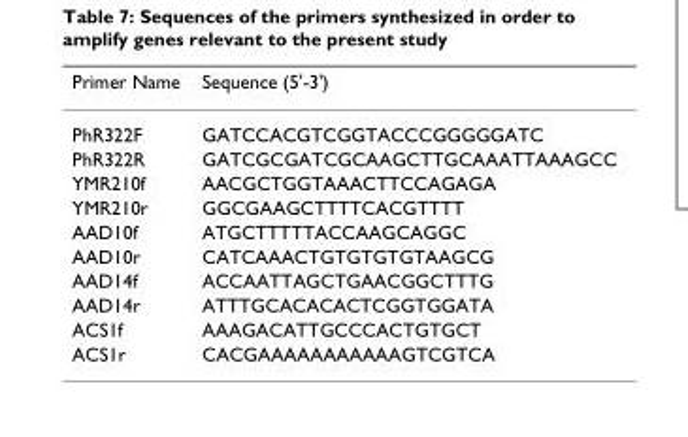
<table><thead><tr><td>Primer Name</td><td>Sequence (5&#x27;-3&#x27;)</td></tr></thead><tbody><tr><td>PhR322F</td><td>GATCCACGTCGGTACCCGGGGGATC</td></tr><tr><td>PhR322R</td><td>GATCGCGATCGCAAGCTTGCAAATTAAAGCC</td></tr><tr><td>YMR210f</td><td>AACGCTGGTAAACTTCCAGAGA</td></tr><tr><td>YMR210r</td><td>GGCGAAGCTTTTCACGTTTT</td></tr><tr><td>AAD10f</td><td>ATGCTTTTTACCAAGCAGGC</td></tr><tr><td>AAD10r</td><td>CATCAAACTGTGTGTGTAAGCG</td></tr><tr><td>AAD14f</td><td>ACCAATTAGCTGAACGGCTTTG</td></tr><tr><td>AAD14r</td><td>ATTTGCACACACTCGGTGGATA</td></tr><tr><td>ACS1f</td><td>AAAGACATTGCCCACTGTGCT</td></tr><tr><td>ACS1r</td><td>CACGAAAAAAAAAAAGTCGTCA</td></tr></tbody></table>